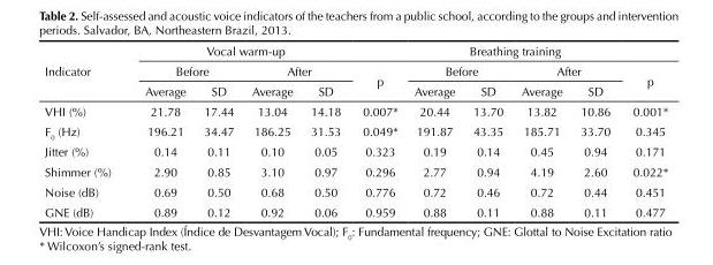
<table><thead><tr><td rowspan="3">Indicator</td><td colspan="4">Vocal warm-up</td><td rowspan="3">p</td><td colspan="4">Breathing training</td><td rowspan="3">p</td></tr><tr><td colspan="2">Before</td><td colspan="2">After</td><td colspan="2">Before</td><td colspan="2">After</td></tr><tr><td>Average</td><td>SD</td><td>Average</td><td>SD</td><td>Average</td><td>SD</td><td>Average</td><td>SD</td></tr></thead><tbody><tr><td>VHI (%)</td><td>21.78</td><td>17.44</td><td>13.04</td><td>14.18</td><td>0.007*</td><td>20.44</td><td>13.70</td><td>13.82</td><td>10.86</td><td>0.001*</td></tr><tr><td>F<sub>0</sub> (Hz)</td><td>196.21</td><td>34.47</td><td>186.25</td><td>31.53</td><td>0.049*</td><td>191.87</td><td>43.35</td><td>185.71</td><td>33.70</td><td>0.345</td></tr><tr><td>Jitter (%)</td><td>0.14</td><td>0.11</td><td>0.10</td><td>0.05</td><td>0.323</td><td>0.19</td><td>0.14</td><td>0.45</td><td>0.94</td><td>0.171</td></tr><tr><td>Shimmer (%)</td><td>2.90</td><td>0.85</td><td>3.10</td><td>0.97</td><td>0.296</td><td>2.77</td><td>0.94</td><td>4.19</td><td>2.60</td><td>0.022*</td></tr><tr><td>Noise (dB)</td><td>0.69</td><td>0.50</td><td>0.68</td><td>0.50</td><td>0.776</td><td>0.72</td><td>0.46</td><td>0.72</td><td>0.44</td><td>0.451</td></tr><tr><td>GNE (dB)</td><td>0.89</td><td>0.12</td><td>0.92</td><td>0.06</td><td>0.959</td><td>0.88</td><td>0.11</td><td>0.88</td><td>0.11</td><td>0.477</td></tr></tbody></table>